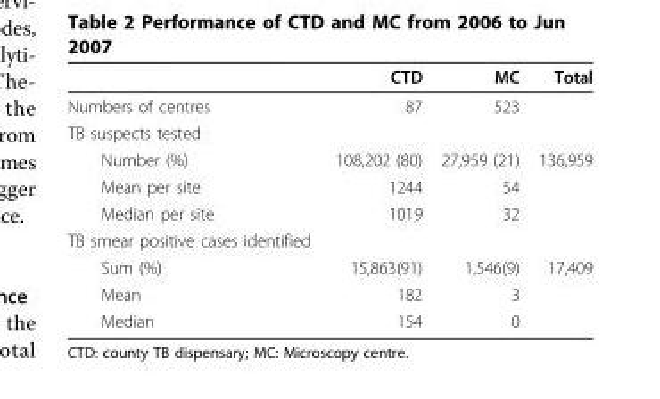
<table><thead><tr><td></td><td>CTD</td><td>MC</td><td>Total</td></tr></thead><tbody><tr><td>Numbers of centres</td><td>87</td><td>523</td><td></td></tr><tr><td colspan="4">TB suspects tested</td></tr><tr><td>Number (%)</td><td>108,202 (80)</td><td>27,959 (21)</td><td>136,959</td></tr><tr><td>Mean per site</td><td>1244</td><td>54</td><td></td></tr><tr><td>Median per site</td><td>1019</td><td>32</td><td></td></tr><tr><td colspan="4">TB smear positive cases identified</td></tr><tr><td>Sum (%)</td><td>15,863(91)</td><td>1,546(9)</td><td>17,409</td></tr><tr><td>Mean</td><td>182</td><td>3</td><td></td></tr><tr><td>Median</td><td>154</td><td>0</td><td></td></tr></tbody></table>